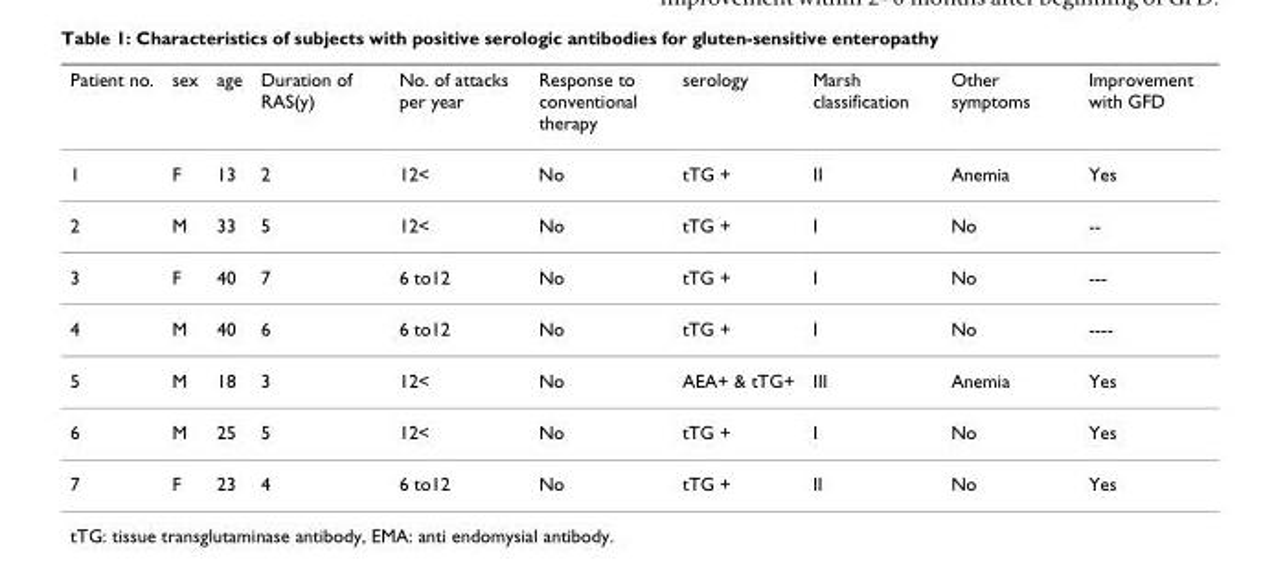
<table><thead><tr><td>Patient no.</td><td>sex</td><td>age</td><td>Duration of RAS(y)</td><td>No. of attacks per year</td><td>Response to conventional therapy</td><td>serology</td><td>Marsh classification</td><td>Other symptoms</td><td>Improvement with GFD</td></tr></thead><tbody><tr><td>1</td><td>F</td><td>13</td><td>2</td><td>12&lt;</td><td>No</td><td>tTG +</td><td>II</td><td>Anemia</td><td>Yes</td></tr><tr><td>2</td><td>M</td><td>33</td><td>5</td><td>12&lt;</td><td>No</td><td>tTG +</td><td>I</td><td>No</td><td>--</td></tr><tr><td>3</td><td>F</td><td>40</td><td>7</td><td>6 to12</td><td>No</td><td>tTG +</td><td>I</td><td>No</td><td>---</td></tr><tr><td>4</td><td>M</td><td>40</td><td>6</td><td>6 to12</td><td>No</td><td>tTG +</td><td>I</td><td>No</td><td>----</td></tr><tr><td>5</td><td>M</td><td>18</td><td>3</td><td>12&lt;</td><td>No</td><td>AEA+ &amp; tTG+</td><td>III</td><td>Anemia</td><td>Yes</td></tr><tr><td>6</td><td>M</td><td>25</td><td>5</td><td>12&lt;</td><td>No</td><td>tTG +</td><td>I</td><td>No</td><td>Yes</td></tr><tr><td>7</td><td>F</td><td>23</td><td>4</td><td>6 to12</td><td>No</td><td>tTG +</td><td>II</td><td>No</td><td>Yes</td></tr></tbody></table>